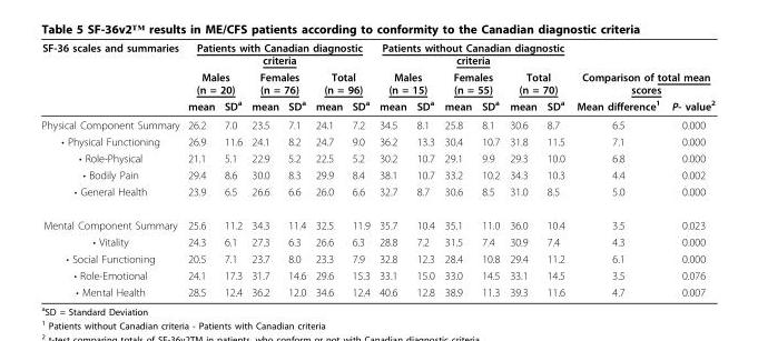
<table><thead><tr><td rowspan="3">SF-36 scales and summaries</td><td colspan="6">Patients with Canadian diagnostic criteria</td><td colspan="6">Patients without Canadian diagnostic criteria</td><td></td><td></td></tr><tr><td colspan="2">Males (n = 20)</td><td colspan="2">Females (n = 76)</td><td colspan="2">Total (n = 96)</td><td colspan="2">Males (n = 15)</td><td colspan="2">Females (n = 55)</td><td colspan="2">Total (n = 70)</td><td colspan="2">Comparison of total mean scores</td></tr><tr><td>mean</td><td>SD<sup>a</sup></td><td>mean</td><td>SD<sup>a</sup></td><td>mean</td><td>SD<sup>a</sup></td><td>mean</td><td>SD<sup>a</sup></td><td>mean</td><td>SD<sup>a</sup></td><td>mean</td><td>SD<sup>a</sup></td><td>Mean difference<sup>1</sup></td><td>P- value<sup>2</sup></td></tr></thead><tbody><tr><td>Physical Component Summary</td><td>26.2</td><td>7.0</td><td>23.5</td><td>7.1</td><td>24.1</td><td>7.2</td><td>34.5</td><td>8.1</td><td>25.8</td><td>8.1</td><td>30.6</td><td>8.7</td><td>6.5</td><td>0.000</td></tr><tr><td>• Physical Functioning</td><td>26.9</td><td>11.6</td><td>24.1</td><td>8.2</td><td>24.7</td><td>9.0</td><td>36.2</td><td>13.3</td><td>30.4</td><td>10.7</td><td>31.8</td><td>11.5</td><td>7.1</td><td>0.000</td></tr><tr><td>• Role-Physical</td><td>21.1</td><td>5.1</td><td>22.9</td><td>5.2</td><td>22.5</td><td>5.2</td><td>30.2</td><td>10.7</td><td>29.1</td><td>9.9</td><td>29.3</td><td>10.0</td><td>6.8</td><td>0.000</td></tr><tr><td>• Bodily Pain</td><td>29.4</td><td>8.6</td><td>30.0</td><td>8.3</td><td>29.9</td><td>8.4</td><td>38.1</td><td>10.7</td><td>33.2</td><td>10.2</td><td>34.3</td><td>10.3</td><td>4.4</td><td>0.002</td></tr><tr><td>• General Health</td><td>23.9</td><td>6.5</td><td>26.6</td><td>6.6</td><td>26.0</td><td>6.6</td><td>32.7</td><td>8.7</td><td>30.6</td><td>8.5</td><td>31.0</td><td>8.5</td><td>5.0</td><td>0.000</td></tr><tr><td>Mental Component Summary</td><td>25.6</td><td>11.2</td><td>34.3</td><td>11.4</td><td>32.5</td><td>11.9</td><td>35.7</td><td>10.4</td><td>35.1</td><td>11.0</td><td>36.0</td><td>10.4</td><td>3.5</td><td>0.023</td></tr><tr><td>• Vitality</td><td>24.3</td><td>6.1</td><td>27.3</td><td>6.3</td><td>26.6</td><td>6.3</td><td>28.8</td><td>7.2</td><td>31.5</td><td>7.4</td><td>30.9</td><td>7.4</td><td>4.3</td><td>0.000</td></tr><tr><td>• Social Functioning</td><td>20.5</td><td>7.1</td><td>23.7</td><td>8.0</td><td>23.3</td><td>7.9</td><td>32.8</td><td>12.3</td><td>28.4</td><td>10.8</td><td>29.4</td><td>11.2</td><td>6.1</td><td>0.000</td></tr><tr><td>• Role-Emotional</td><td>24.1</td><td>17.3</td><td>31.7</td><td>14.6</td><td>29.6</td><td>15.3</td><td>33.1</td><td>15.0</td><td>33.0</td><td>14.5</td><td>33.1</td><td>14.5</td><td>3.5</td><td>0.076</td></tr><tr><td>• Mental Health</td><td>28.5</td><td>12.4</td><td>36.2</td><td>12.0</td><td>34.6</td><td>12.4</td><td>40.6</td><td>12.8</td><td>38.9</td><td>11.3</td><td>39.3</td><td>11.6</td><td>4.7</td><td>0.007</td></tr></tbody></table>